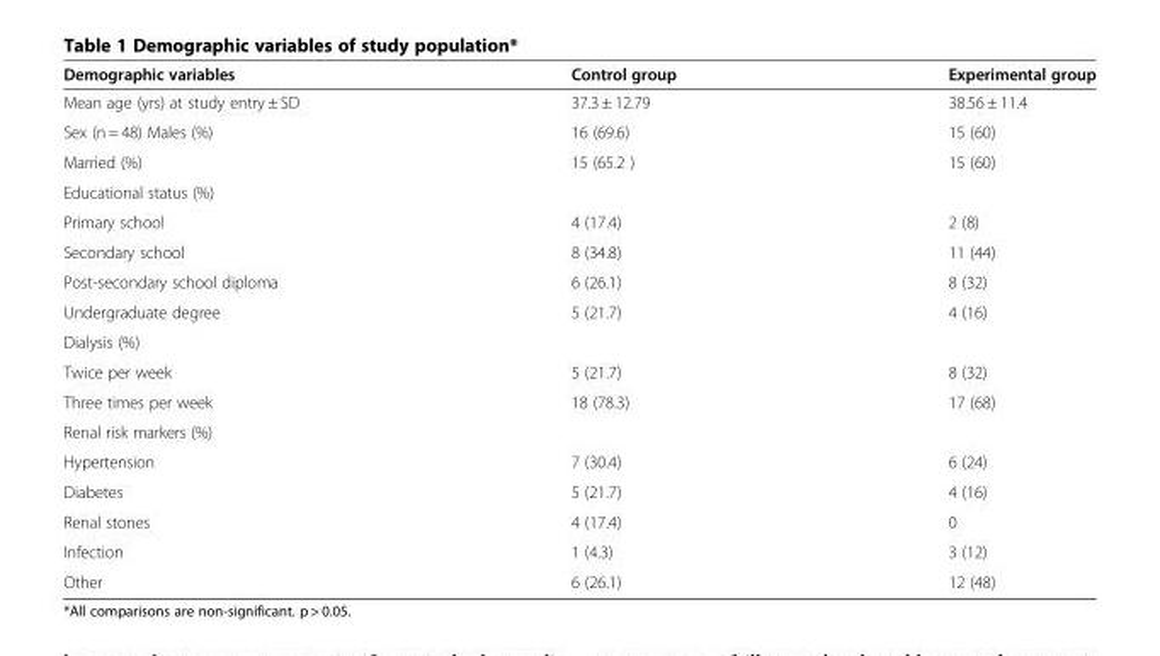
<table><thead><tr><td>Demographic variables</td><td>Control group</td><td>Experimental group</td></tr></thead><tbody><tr><td>Mean age (yrs) at study entry ± SD</td><td>37.3 ± 12.79</td><td>38.56 ± 11.4</td></tr><tr><td>Sex (n = 48) Males (%)</td><td>16 (69.6)</td><td>15 (60)</td></tr><tr><td>Married (%)</td><td>15 (65.2 )</td><td>15 (60)</td></tr><tr><td colspan="3">Educational status (%)</td></tr><tr><td>Primary school</td><td>4 (17.4)</td><td>2 (8)</td></tr><tr><td>Secondary school</td><td>8 (34.8)</td><td>11 (44)</td></tr><tr><td>Post-secondary school diploma</td><td>6 (26.1)</td><td>8 (32)</td></tr><tr><td>Undergraduate degree</td><td>5 (21.7)</td><td>4 (16)</td></tr><tr><td colspan="3">Dialysis (%)</td></tr><tr><td>Twice per week</td><td>5 (21.7)</td><td>8 (32)</td></tr><tr><td>Three times per week</td><td>18 (78.3)</td><td>17 (68)</td></tr><tr><td colspan="3">Renal risk markers (%)</td></tr><tr><td>Hypertension</td><td>7 (30.4)</td><td>6 (24)</td></tr><tr><td>Diabetes</td><td>5 (21.7)</td><td>4 (16)</td></tr><tr><td>Renal stones</td><td>4 (17.4)</td><td>0</td></tr><tr><td>Infection</td><td>1 (4.3)</td><td>3 (12)</td></tr><tr><td>Other</td><td>6 (26.1)</td><td>12 (48)</td></tr></tbody></table>